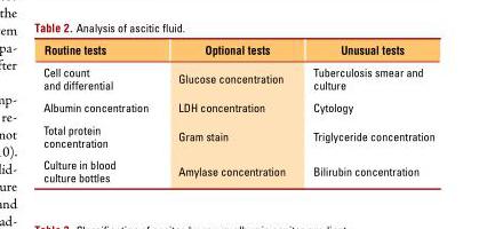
<table><thead><tr><td>Routine tests</td><td>Optional tests</td><td>Unusual tests</td></tr></thead><tbody><tr><td>Cell count and differential</td><td>Glucose concentration</td><td>Tuberculosis smear and culture</td></tr><tr><td>Albumin concentration</td><td>LDH concentration</td><td>Cytology</td></tr><tr><td>Total protein concentration</td><td>Gram stain</td><td>Triglyceride concentration</td></tr><tr><td>Culture in blood culture bottles</td><td>Amylase concentration</td><td>Bilirubin concentration</td></tr></tbody></table>